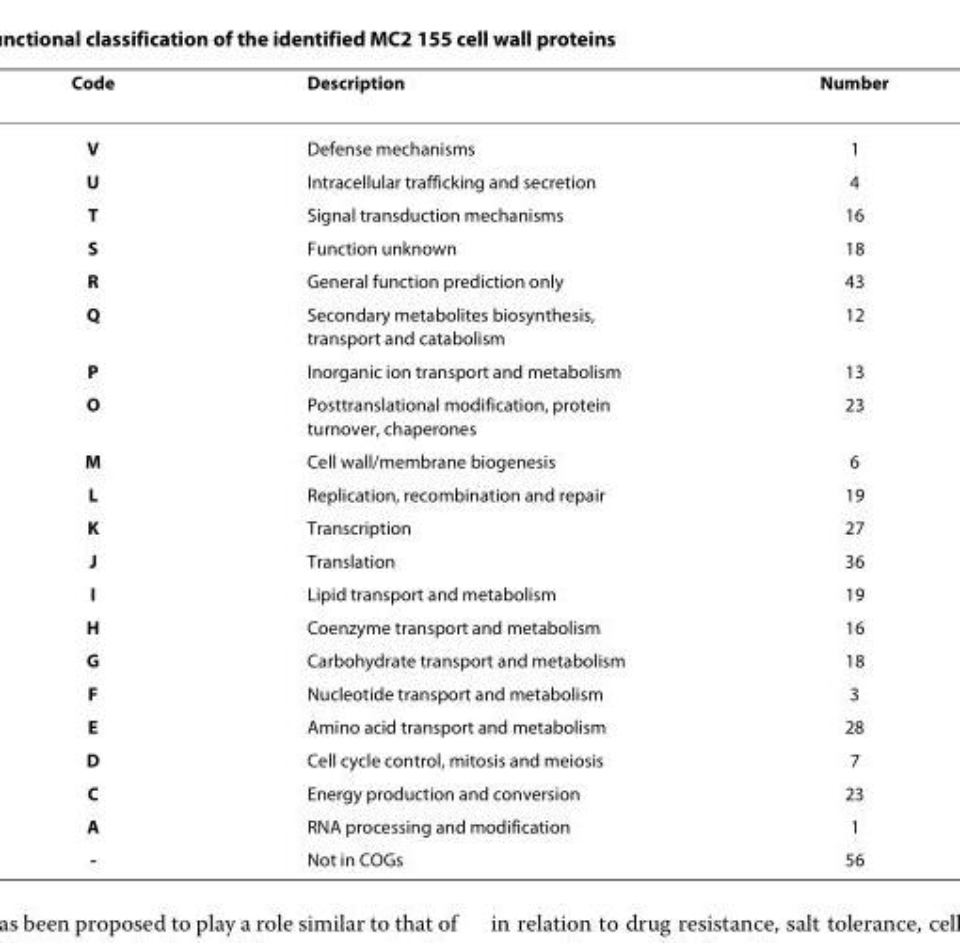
<table><thead><tr><td>Code</td><td>Description</td><td>Number</td></tr></thead><tbody><tr><td>V</td><td>Defense mechanisms</td><td>1</td></tr><tr><td>U</td><td>Intracellular trafficking and secretion</td><td>4</td></tr><tr><td>T</td><td>Signal transduction mechanisms</td><td>16</td></tr><tr><td>S</td><td>Function unknown</td><td>18</td></tr><tr><td>R</td><td>General function prediction only</td><td>43</td></tr><tr><td>Q</td><td>Secondary metabolites biosynthesis, transport and catabolism</td><td>12</td></tr><tr><td>P</td><td>Inorganic ion transport and metabolism</td><td>13</td></tr><tr><td>O</td><td>Posttranslational modification, protein turnover, chaperones</td><td>23</td></tr><tr><td>M</td><td>Cell wall/membrane biogenesis</td><td>6</td></tr><tr><td>L</td><td>Replication, recombination and repair</td><td>19</td></tr><tr><td>K</td><td>Transcription</td><td>27</td></tr><tr><td>J</td><td>Translation</td><td>36</td></tr><tr><td>I</td><td>Lipid transport and metabolism</td><td>19</td></tr><tr><td>H</td><td>Coenzyme transport and metabolism</td><td>16</td></tr><tr><td>G</td><td>Carbohydrate transport and metabolism</td><td>18</td></tr><tr><td>F</td><td>Nucleotide transport and metabolism</td><td>3</td></tr><tr><td>E</td><td>Amino acid transport and metabolism</td><td>28</td></tr><tr><td>D</td><td>Cell cycle control, mitosis and meiosis</td><td>7</td></tr><tr><td>C</td><td>Energy production and conversion</td><td>23</td></tr><tr><td>A</td><td>RNA processing and modification</td><td>1</td></tr><tr><td>-</td><td>Not in COGs</td><td>56</td></tr></tbody></table>